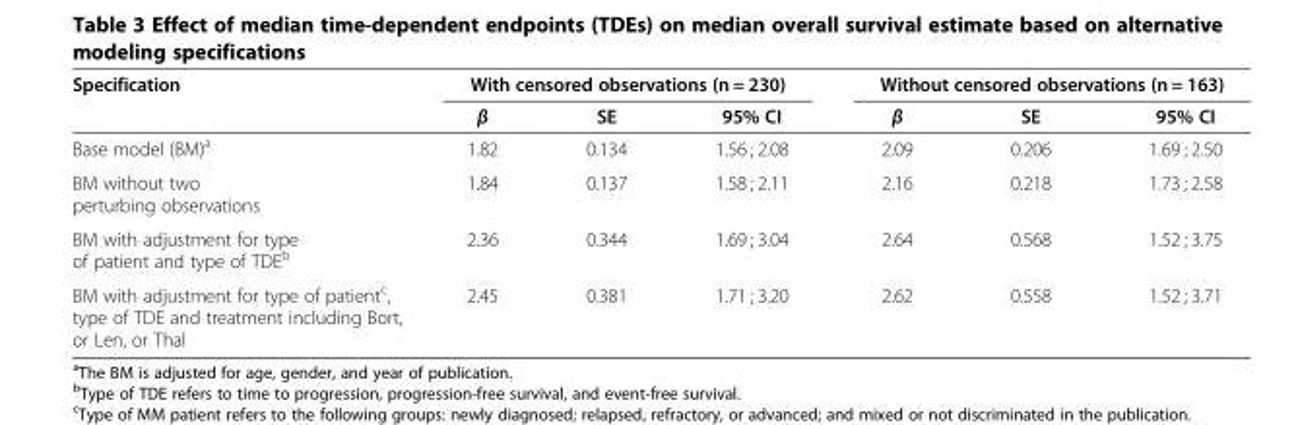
<table><thead><tr><td rowspan="2">Specification</td><td colspan="3">With censored observations (n = 230)</td><td colspan="3">Without censored observations (n = 163)</td></tr><tr><td>β</td><td>SE</td><td>95% CI</td><td>β</td><td>SE</td><td>95% CI</td></tr></thead><tbody><tr><td>Base model (BM)<sup>a</sup></td><td>1.82</td><td>0.134</td><td>1.56 ; 2.08</td><td>2.09</td><td>0.206</td><td>1.69 ; 2.50</td></tr><tr><td>BM without two perturbing observations</td><td>1.84</td><td>0.137</td><td>1.58 ; 2.11</td><td>2.16</td><td>0.218</td><td>1.73 ; 2.58</td></tr><tr><td>BM with adjustment for type of patient and type of TDE<sup>b</sup></td><td>2.36</td><td>0.344</td><td>1.69 ; 3.04</td><td>2.64</td><td>0.568</td><td>1.52 ; 3.75</td></tr><tr><td>BM with adjustment for type of patient<sup>c</sup>, type of TDE and treatment including Bort, or Len, or Thal</td><td>2.45</td><td>0.381</td><td>1.71 ; 3.20</td><td>2.62</td><td>0.558</td><td>1.52 ; 3.71</td></tr></tbody></table>